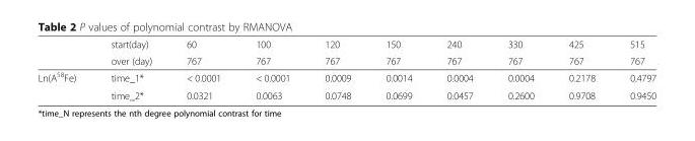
<table><thead><tr><td rowspan="2"></td><td rowspan="2">start(day) over (day)</td><td rowspan="2">60 767</td><td rowspan="2">100 767</td><td rowspan="2">120 767</td><td rowspan="2">150 767</td><td rowspan="2">240 767</td><td rowspan="2">330 767</td><td rowspan="2">425 767</td><td rowspan="2">515 767</td></tr><tr></tr></thead><tbody><tr><td rowspan="2">Ln(A<sup>58</sup>Fe)</td><td>time_1*</td><td>&lt; 0.0001</td><td>&lt; 0.0001</td><td>0.0009</td><td>0.0014</td><td>0.0004</td><td>0.0004</td><td>0.2178</td><td>0.4797</td></tr><tr><td>time_2*</td><td>0.0321</td><td>0.0063</td><td>0.0748</td><td>0.0699</td><td>0.0457</td><td>0.2600</td><td>0.9708</td><td>0.9450</td></tr></tbody></table>